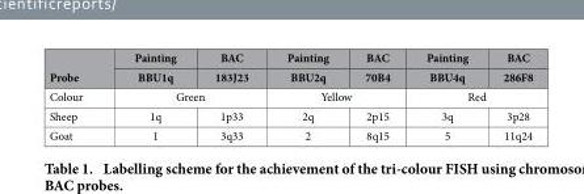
<table><thead><tr><td rowspan="2">Probe</td><td rowspan="2">Painting BBU1q</td><td rowspan="2">BAC 183J23</td><td rowspan="2">Painting BBU2q</td><td rowspan="2">BAC 70B4</td><td rowspan="2">Painting BBU4q</td><td rowspan="2">BAC 286F8</td></tr><tr></tr></thead><tbody><tr><td>Colour</td><td colspan="2">Green</td><td colspan="2">Yellow</td><td colspan="2">Red</td></tr><tr><td>Sheep</td><td>1q</td><td>1p33</td><td>2q</td><td>2p15</td><td>3q</td><td>3p28</td></tr><tr><td>Goat</td><td>1</td><td>3q33</td><td>2</td><td>8q15</td><td>5</td><td>11q24</td></tr></tbody></table>